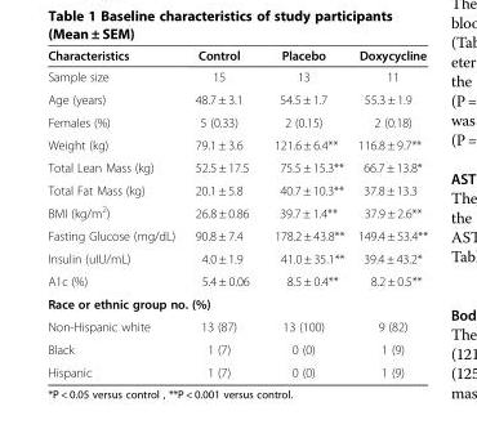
<table><thead><tr><td>Characteristics</td><td>Control</td><td>Placebo</td><td>Doxycycline</td></tr></thead><tbody><tr><td>Sample size</td><td>15</td><td>13</td><td>11</td></tr><tr><td>Age (years)</td><td>48.7 ± 3.1</td><td>54.5 ± 1.7</td><td>55.3 ± 1.9</td></tr><tr><td>Females (%)</td><td>5 (0.33)</td><td>2 (0.15)</td><td>2 (0.18)</td></tr><tr><td>Weight (kg)</td><td>79.1 ± 3.6</td><td>121.6 ± 6.4**</td><td>116.8 ± 9.7**</td></tr><tr><td>Total Lean Mass (kg)</td><td>52.5 ± 17.5</td><td>75.5 ± 15.3**</td><td>66.7 ± 13.8*</td></tr><tr><td>Total Fat Mass (kg)</td><td>20.1 ± 5.8</td><td>40.7 ± 10.3**</td><td>37.8 ± 13.3</td></tr><tr><td>BMI (kg/m<sup>2</sup>)</td><td>26.8 ± 0.86</td><td>39.7 ± 1.4**</td><td>37.9 ± 2.6**</td></tr><tr><td>Fasting Glucose (mg/dL)</td><td>90.8 ± 7.4</td><td>178.2 ± 43.8**</td><td>149.4 ± 53.4**</td></tr><tr><td>Insulin (uIU/mL)</td><td>4.0 ± 1.9</td><td>41.0 ± 35.1**</td><td>39.4 ± 43.2*</td></tr><tr><td>A1c (%)</td><td>5.4 ± 0.06</td><td>8.5 ± 0.4**</td><td>8.2 ± 0.5**</td></tr><tr><td colspan="4">Race or ethnic group no. (%)</td></tr><tr><td>Non-Hispanic white</td><td>13 (87)</td><td>13 (100)</td><td>9 (82)</td></tr><tr><td>Black</td><td>1 (7)</td><td>0 (0)</td><td>1 (9)</td></tr><tr><td>Hispanic</td><td>1 (7)</td><td>0 (0)</td><td>1 (9)</td></tr></tbody></table>